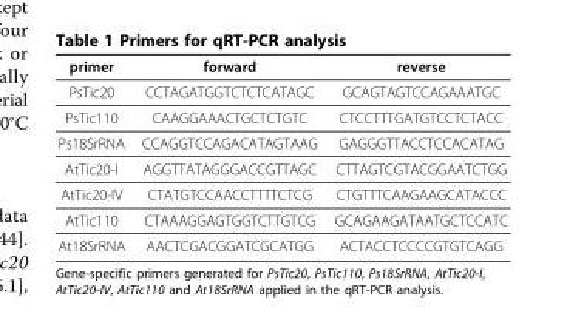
<table><thead><tr><td>primer</td><td>forward</td><td>reverse</td></tr></thead><tbody><tr><td>PsTic20</td><td>CCTAGATGGTCTCTCATAGC</td><td>GCAGTAGTCCAGAAATGC</td></tr><tr><td>PsTic110</td><td>CAAGGAAACTGCTCTGTC</td><td>CTCCTTTGATGTCCTCTACC</td></tr><tr><td>Ps18SrRNA</td><td>CCAGGTCCAGACATAGTAAG</td><td>GAGGGTTACCTCCACATAG</td></tr><tr><td>AtTic20-I</td><td>AGGTTATAGGGACCGTTAGC</td><td>CTTAGTCGTACGGAATCTGG</td></tr><tr><td>AtTic20-IV</td><td>CTATGTCCAACCTTTTCTCG</td><td>CTGTTTCAAGAAGCATACCC</td></tr><tr><td>AtTic110</td><td>CTAAAGGAGTGGTCTTGTCG</td><td>GCAGAAGATAATGCTCCATC</td></tr><tr><td>At18SrRNA</td><td>AACTCGACGGATCGCATGG</td><td>ACTACCTCCCCGTGTCAGG</td></tr></tbody></table>